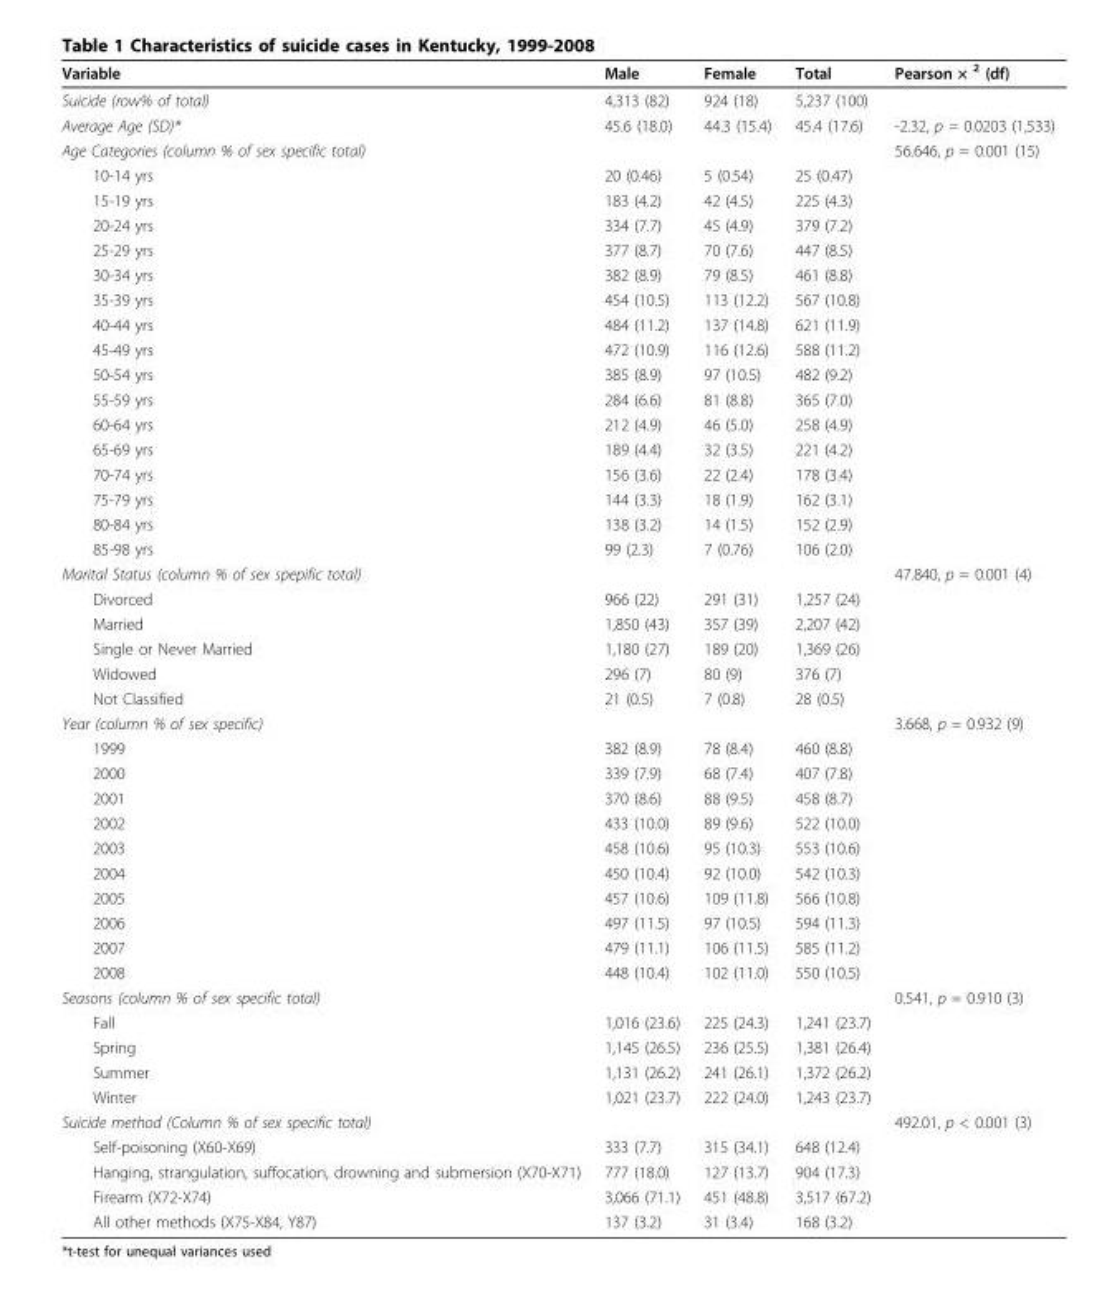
<table><thead><tr><td>Variable</td><td>Male</td><td>Female</td><td>Total</td><td>Pearson × <sup>2</sup> (df)</td></tr></thead><tbody><tr><td>Suicide (row% of total)</td><td>4,313 (82)</td><td>924 (18)</td><td>5,237 (100)</td><td></td></tr><tr><td>Average Age (SD)*</td><td>45.6 (18.0)</td><td>44.3 (15.4)</td><td>45.4 (17.6)</td><td>-2.32, p = 0.0203 (1,533)</td></tr><tr><td>Age Categories (column % of sex specific total)</td><td></td><td></td><td></td><td>56.646, p = 0.001 (15)</td></tr><tr><td>10-14 yrs</td><td>20 (0.46)</td><td>5 (0.54)</td><td>25 (0.47)</td><td></td></tr><tr><td>15-19 yrs</td><td>183 (4.2)</td><td>42 (4.5)</td><td>225 (4.3)</td><td></td></tr><tr><td>20-24 yrs</td><td>334 (7.7)</td><td>45 (4.9)</td><td>379 (7.2)</td><td></td></tr><tr><td>25-29 yrs</td><td>377 (8.7)</td><td>70 (7.6)</td><td>447 (8.5)</td><td></td></tr><tr><td>30-34 yrs</td><td>382 (8.9)</td><td>79 (8.5)</td><td>461 (8.8)</td><td></td></tr><tr><td>35-39 yrs</td><td>454 (10.5)</td><td>113 (12.2)</td><td>567 (10.8)</td><td></td></tr><tr><td>40-44 yrs</td><td>484 (11.2)</td><td>137 (14.8)</td><td>621 (11.9)</td><td></td></tr><tr><td>45-49 yrs</td><td>472 (10.9)</td><td>116 (12.6)</td><td>588 (11.2)</td><td></td></tr><tr><td>50-54 yrs</td><td>385 (8.9)</td><td>97 (10.5)</td><td>482 (9.2)</td><td></td></tr><tr><td>55-59 yrs</td><td>284 (6.6)</td><td>81 (8.8)</td><td>365 (7.0)</td><td></td></tr><tr><td>60-64 yrs</td><td>212 (4.9)</td><td>46 (5.0)</td><td>258 (4.9)</td><td></td></tr><tr><td>65-69 yrs</td><td>189 (4.4)</td><td>32 (3.5)</td><td>221 (4.2)</td><td></td></tr><tr><td>70-74 yrs</td><td>156 (3.6)</td><td>22 (2.4)</td><td>178 (3.4)</td><td></td></tr><tr><td>75-79 yrs</td><td>144 (3.3)</td><td>18 (1.9)</td><td>162 (3.1)</td><td></td></tr><tr><td>80-84 yrs</td><td>138 (3.2)</td><td>14 (1.5)</td><td>152 (2.9)</td><td></td></tr><tr><td>85-98 yrs</td><td>99 (2.3)</td><td>7 (0.76)</td><td>106 (2.0)</td><td></td></tr><tr><td>Marital Status (column % of sex spepific total)</td><td></td><td></td><td></td><td>47.840, p = 0.001 (4)</td></tr><tr><td>Divorced</td><td>966 (22)</td><td>291 (31)</td><td>1,257 (24)</td><td></td></tr><tr><td>Married</td><td>1,850 (43)</td><td>357 (39)</td><td>2,207 (42)</td><td></td></tr><tr><td>Single or Never Married</td><td>1,180 (27)</td><td>189 (20)</td><td>1,369 (26)</td><td></td></tr><tr><td>Widowed</td><td>296 (7)</td><td>80 (9)</td><td>376 (7)</td><td></td></tr><tr><td>Not Classified</td><td>21 (0.5)</td><td>7 (0.8)</td><td>28 (0.5)</td><td></td></tr><tr><td>Year (column % of sex specific)</td><td></td><td></td><td></td><td>3.668, p = 0.932 (9)</td></tr><tr><td>1999</td><td>382 (8.9)</td><td>78 (8.4)</td><td>460 (8.8)</td><td></td></tr><tr><td>2000</td><td>339 (7.9)</td><td>68 (7.4)</td><td>407 (7.8)</td><td></td></tr><tr><td>2001</td><td>370 (8.6)</td><td>88 (9.5)</td><td>458 (8.7)</td><td></td></tr><tr><td>2002</td><td>433 (10.0)</td><td>89 (9.6)</td><td>522 (10.0)</td><td></td></tr><tr><td>2003</td><td>458 (10.6)</td><td>95 (10.3)</td><td>553 (10.6)</td><td></td></tr><tr><td>2004</td><td>450 (10.4)</td><td>92 (10.0)</td><td>542 (10.3)</td><td></td></tr><tr><td>2005</td><td>457 (10.6)</td><td>109 (11.8)</td><td>566 (10.8)</td><td></td></tr><tr><td>2006</td><td>497 (11.5)</td><td>97 (10.5)</td><td>594 (11.3)</td><td></td></tr><tr><td>2007</td><td>479 (11.1)</td><td>106 (11.5)</td><td>585 (11.2)</td><td></td></tr><tr><td>2008</td><td>448 (10.4)</td><td>102 (11.0)</td><td>550 (10.5)</td><td></td></tr><tr><td>Seasons (column % of sex specific total)</td><td></td><td></td><td></td><td>0.541, p = 0.910 (3)</td></tr><tr><td>Fall</td><td>1,016 (23.6)</td><td>225 (24.3)</td><td>1,241 (23.7)</td><td></td></tr><tr><td>Spring</td><td>1,145 (26.5)</td><td>236 (25.5)</td><td>1,381 (26.4)</td><td></td></tr><tr><td>Summer</td><td>1,131 (26.2)</td><td>241 (26.1)</td><td>1,372 (26.2)</td><td></td></tr><tr><td>Winter</td><td>1,021 (23.7)</td><td>222 (24.0)</td><td>1,243 (23.7)</td><td></td></tr><tr><td>Suicide method (Column % of sex specific total)</td><td></td><td></td><td></td><td>492.01, p &lt; 0.001 (3)</td></tr><tr><td>Self-poisoning (X60-X69)</td><td>333 (7.7)</td><td>315 (34.1)</td><td>648 (12.4)</td><td></td></tr><tr><td>Hanging, strangulation, suffocation, drowning and submersion (X70-X71)</td><td>777 (18.0)</td><td>127 (13.7)</td><td>904 (17.3)</td><td></td></tr><tr><td>Firearm (X72-X74)</td><td>3,066 (71.1)</td><td>451 (48.8)</td><td>3,517 (67.2)</td><td></td></tr><tr><td>All other methods (X75-X84, Y87)</td><td>137 (3.2)</td><td>31 (3.4)</td><td>168 (3.2)</td><td></td></tr></tbody></table>